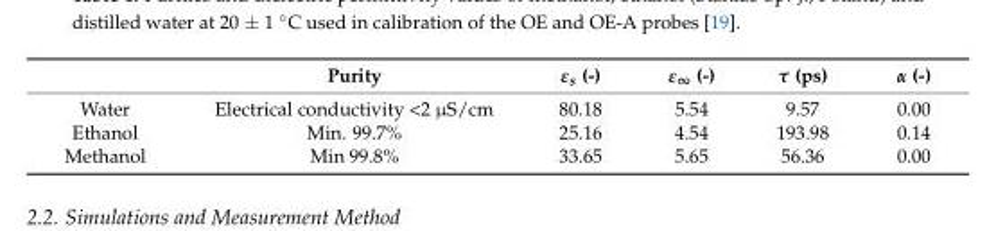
<table><thead><tr><td></td><td>Purity</td><td>ε<sub>s</sub> (-)</td><td>ε<sub>∞</sub> (-)</td><td>τ (ps)</td><td>α (-)</td></tr></thead><tbody><tr><td>Water</td><td>Electrical conductivity &lt;2 µS/cm</td><td>80.18</td><td>5.54</td><td>9.57</td><td>0.00</td></tr><tr><td>Ethanol</td><td>Min. 99.7%</td><td>25.16</td><td>4.54</td><td>193.98</td><td>0.14</td></tr><tr><td>Methanol</td><td>Min 99.8%</td><td>33.65</td><td>5.65</td><td>56.36</td><td>0.00</td></tr></tbody></table>